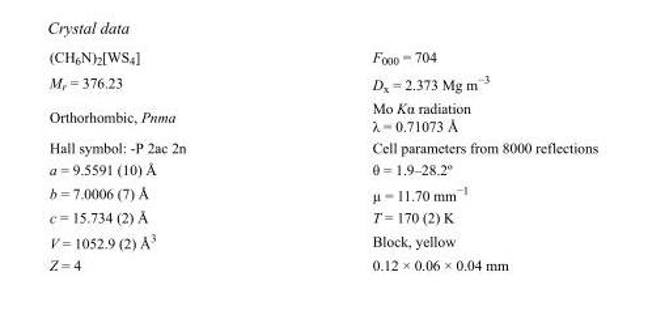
<table><tbody><tr><td>(CH<sub>6</sub>N)<sub>2</sub>[WS<sub>4</sub>]</td><td>F<sub>000</sub> = 704</td></tr><tr><td>M<sub>r</sub> = 376.23</td><td>D<sub>x</sub> = 2.373 Mg m<sup>−3</sup></td></tr><tr><td>Orthorhombic, Pnma</td><td>Mo Kα radiation λ = 0.71073 Å</td></tr><tr><td>Hall symbol: -P 2ac 2n</td><td>Cell parameters from 8000 reflections</td></tr><tr><td>a = 9.5591 (10) Å</td><td>θ = 1.9–28.2º</td></tr><tr><td>b = 7.0006 (7) Å</td><td>µ = 11.70 mm<sup>−1</sup></td></tr><tr><td>c = 15.734 (2) Å</td><td>T = 170 (2) K</td></tr><tr><td>V = 1052.9 (2) Å<sup>3</sup></td><td>Block, yellow</td></tr><tr><td>Z = 4</td><td>0.12 × 0.06 × 0.04 mm</td></tr></tbody></table>